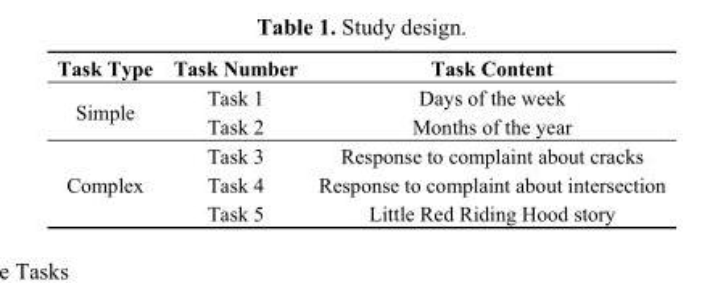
<table><thead><tr><td>Task Type</td><td>Task Number</td><td>Task Content</td></tr></thead><tbody><tr><td rowspan="2">Simple</td><td>Task 1</td><td>Days of the week</td></tr><tr><td>Task 2</td><td>Months of the year</td></tr><tr><td rowspan="3">Complex</td><td>Task 3</td><td>Response to complaint about cracks</td></tr><tr><td>Task 4</td><td>Response to complaint about intersection</td></tr><tr><td>Task 5</td><td>Little Red Riding Hood story</td></tr></tbody></table>